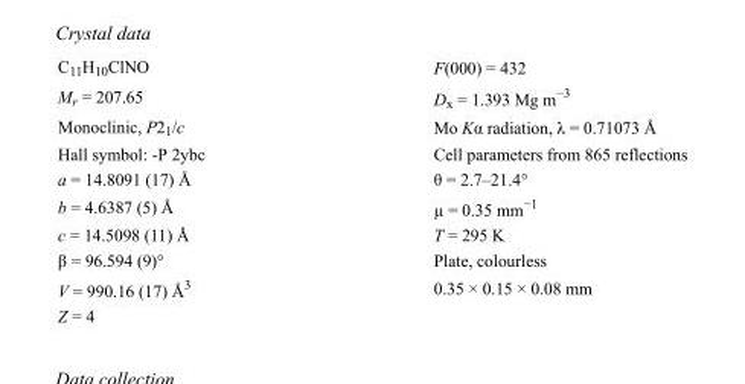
<table><tbody><tr><td>C<sub>11</sub>H<sub>10</sub>ClNO</td><td>F(000) = 432</td></tr><tr><td>M<sub>r</sub> = 207.65</td><td>D<sub>x</sub> = 1.393 Mg m<sup>−3</sup></td></tr><tr><td>Monoclinic, P2<sub>1</sub>/c</td><td>Mo Kα radiation, λ = 0.71073 Å</td></tr><tr><td>Hall symbol: -P 2ybc</td><td>Cell parameters from 865 reflections</td></tr><tr><td>a = 14.8091 (17) Å</td><td>θ = 2.7–21.4°</td></tr><tr><td>b = 4.6387 (5) Å</td><td>µ = 0.35 mm<sup>−1</sup></td></tr><tr><td>c = 14.5098 (11) Å</td><td>T = 295 K</td></tr><tr><td>β = 96.594 (9)°</td><td>Plate, colourless</td></tr><tr><td>V = 990.16 (17) Å<sup>3</sup></td><td>0.35 × 0.15 × 0.08 mm</td></tr><tr><td>Z = 4</td><td></td></tr></tbody></table>